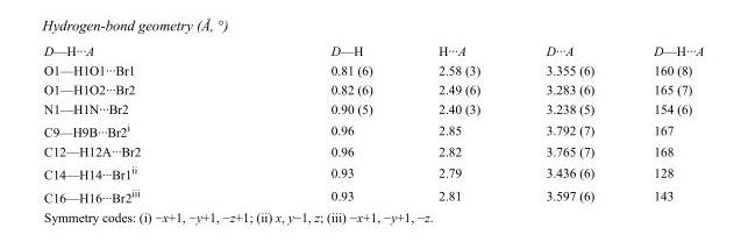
<table><tbody><tr><td>D—H···A</td><td>D—H</td><td>H···A</td><td>D···A</td><td>D—H···A</td></tr><tr><td>O1—H1O1···Br1</td><td>0.81 (6)</td><td>2.58 (3)</td><td>3.355 (6)</td><td>160 (8)</td></tr><tr><td>O1—H1O2···Br2</td><td>0.82 (6)</td><td>2.49 (6)</td><td>3.283 (6)</td><td>165 (7)</td></tr><tr><td>N1—H1N···Br2</td><td>0.90 (5)</td><td>2.40 (3)</td><td>3.238 (5)</td><td>154 (6)</td></tr><tr><td>C9—H9B···Br2<sup>i</sup></td><td>0.96</td><td>2.85</td><td>3.792 (7)</td><td>167</td></tr><tr><td>C12—H12A···Br2</td><td>0.96</td><td>2.82</td><td>3.765 (7)</td><td>168</td></tr><tr><td>C14—H14···Br1<sup>ii</sup></td><td>0.93</td><td>2.79</td><td>3.436 (6)</td><td>128</td></tr><tr><td>C16—H16···Br2<sup>iii</sup></td><td>0.93</td><td>2.81</td><td>3.597 (6)</td><td>143</td></tr></tbody></table>